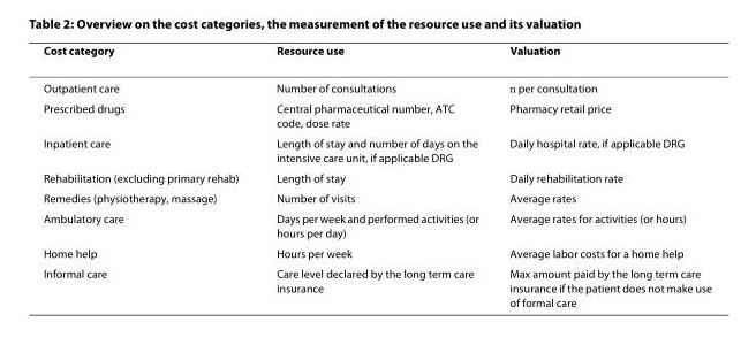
<table><thead><tr><td>Cost category</td><td>Resource use</td><td>Valuation</td></tr></thead><tbody><tr><td>Outpatient care</td><td>Number of consultations</td><td>€ per consultation</td></tr><tr><td>Prescribed drugs</td><td>Central pharmaceutical number, ATC code, dose rate</td><td>Pharmacy retail price</td></tr><tr><td>Inpatient care</td><td>Length of stay and number of days on the intensive care unit, if applicable DRG</td><td>Daily hospital rate, if applicable DRG</td></tr><tr><td>Rehabilitation (excluding primary rehab)</td><td>Length of stay</td><td>Daily rehabilitation rate</td></tr><tr><td>Remedies (physiotherapy, massage)</td><td>Number of visits</td><td>Average rates</td></tr><tr><td>Ambulatory care</td><td>Days per week and performed activities (or hours per day)</td><td>Average rates for activities (or hours)</td></tr><tr><td>Home help</td><td>Hours per week</td><td>Average labor costs for a home help</td></tr><tr><td>Informal care</td><td>Care level declared by the long term care insurance</td><td>Max amount paid by the long term care insurance if the patient does not make use of formal care</td></tr></tbody></table>